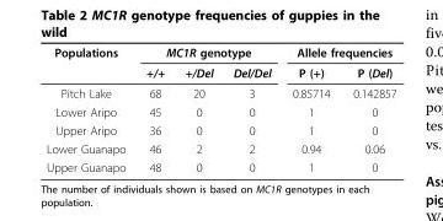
<table><tbody><tr><td rowspan="2">Populations</td><td colspan="3">MC1R genotype</td><td colspan="2">Allele frequencies</td></tr><tr><td>+/+</td><td>+/Del</td><td>Del/Del</td><td>P (+)</td><td>P (Del)</td></tr><tr><td>Pitch Lake</td><td>68</td><td>20</td><td>3</td><td>0.85714</td><td>0.142857</td></tr><tr><td>Lower Aripo</td><td>45</td><td>0</td><td>0</td><td>1</td><td>0</td></tr><tr><td>Upper Aripo</td><td>36</td><td>0</td><td>0</td><td>1</td><td>0</td></tr><tr><td>Lower Guanapo</td><td>46</td><td>2</td><td>2</td><td>0.94</td><td>0.06</td></tr><tr><td>Upper Guanapo</td><td>48</td><td>0</td><td>0</td><td>1</td><td>0</td></tr></tbody></table>